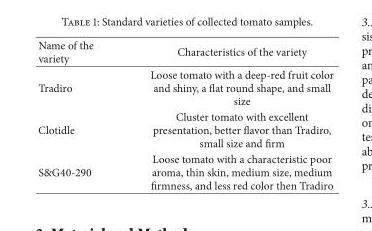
<table><thead><tr><td>Name of the variety</td><td>Characteristics of the variety</td></tr></thead><tbody><tr><td>Tradiro</td><td>Loose tomato with a deep-red fruit color and shiny, a flat round shape, and small size</td></tr><tr><td>Clotidle</td><td>Cluster tomato with excellent presentation, better flavor than Tradiro, small size and firm</td></tr><tr><td>S&amp;G40-290</td><td>Loose tomato with a characteristic poor aroma, thin skin, medium size, medium firmness, and less red color then Tradiro</td></tr></tbody></table>